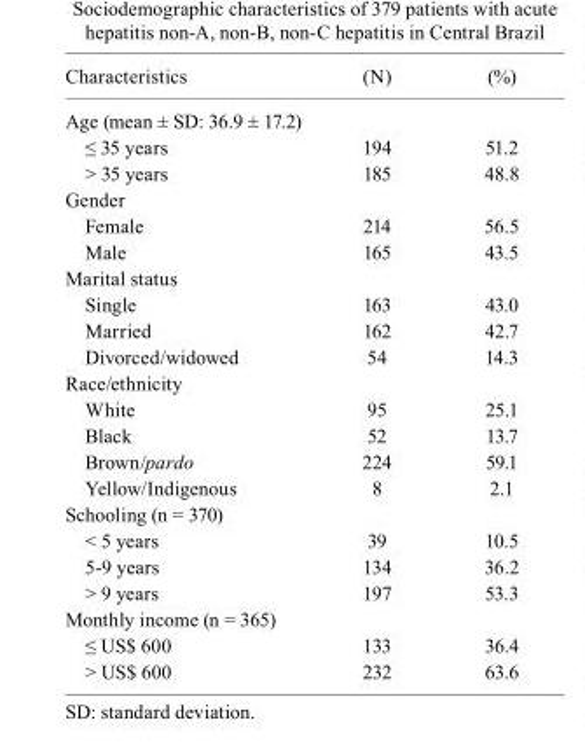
<table><thead><tr><td>Characteristics</td><td>(N)</td><td>(%)</td></tr></thead><tbody><tr><td colspan="3">Age (mean ± SD: 36.9 ± 17.2)</td></tr><tr><td>≤ 35 years</td><td>194</td><td>51.2</td></tr><tr><td>&gt; 35 years</td><td>185</td><td>48.8</td></tr><tr><td colspan="3">Gender</td></tr><tr><td>Female</td><td>214</td><td>56.5</td></tr><tr><td>Male</td><td>165</td><td>43.5</td></tr><tr><td colspan="3">Marital status</td></tr><tr><td>Single</td><td>163</td><td>43.0</td></tr><tr><td>Married</td><td>162</td><td>42.7</td></tr><tr><td>Divorced/widowed</td><td>54</td><td>14.3</td></tr><tr><td colspan="3">Race/ethnicity</td></tr><tr><td>White</td><td>95</td><td>25.1</td></tr><tr><td>Black</td><td>52</td><td>13.7</td></tr><tr><td>Brown/pardo</td><td>224</td><td>59.1</td></tr><tr><td>Yellow/Indigenous</td><td>8</td><td>2.1</td></tr><tr><td colspan="3">Schooling (n = 370)</td></tr><tr><td>&lt; 5 years</td><td>39</td><td>10.5</td></tr><tr><td>5-9 years</td><td>134</td><td>36.2</td></tr><tr><td>&gt; 9 years</td><td>197</td><td>53.3</td></tr><tr><td colspan="3">Monthly income (n = 365)</td></tr><tr><td>≤ US$ 600</td><td>133</td><td>36.4</td></tr><tr><td>&gt; US$ 600</td><td>232</td><td>63.6</td></tr></tbody></table>